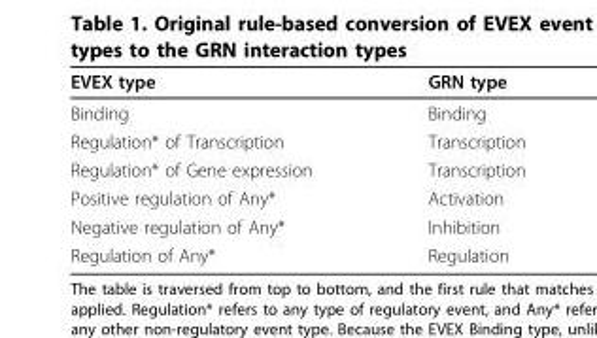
<table><thead><tr><td>EVEX type</td><td>GRN type</td></tr></thead><tbody><tr><td>Binding</td><td>Binding</td></tr><tr><td>Regulation* of Transcription</td><td>Transcription</td></tr><tr><td>Regulation* of Gene expression</td><td>Transcription</td></tr><tr><td>Positive regulation of Any*</td><td>Activation</td></tr><tr><td>Negative regulation of Any*</td><td>Inhibition</td></tr><tr><td>Regulation of Any*</td><td>Regulation</td></tr></tbody></table>